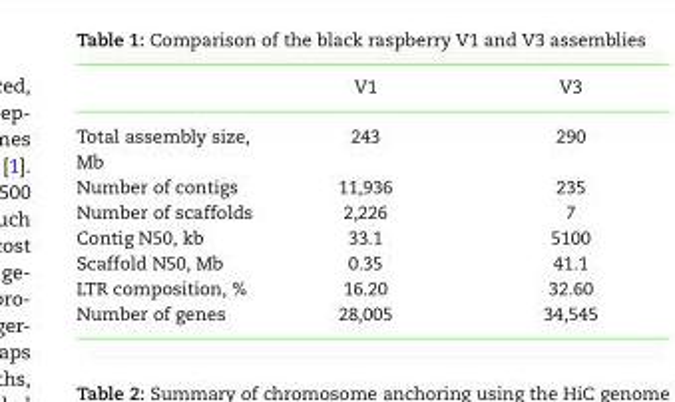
<table><thead><tr><td></td><td>V1</td><td>V3</td></tr></thead><tbody><tr><td>Total assembly size, Mb</td><td>243</td><td>290</td></tr><tr><td>Number of contigs</td><td>11,936</td><td>235</td></tr><tr><td>Number of scaffolds</td><td>2,226</td><td>7</td></tr><tr><td>Contig N50, kb</td><td>33.1</td><td>5100</td></tr><tr><td>Scaffold N50, Mb</td><td>0.35</td><td>41.1</td></tr><tr><td>LTR composition, %</td><td>16.20</td><td>32.60</td></tr><tr><td>Number of genes</td><td>28,005</td><td>34,545</td></tr></tbody></table>